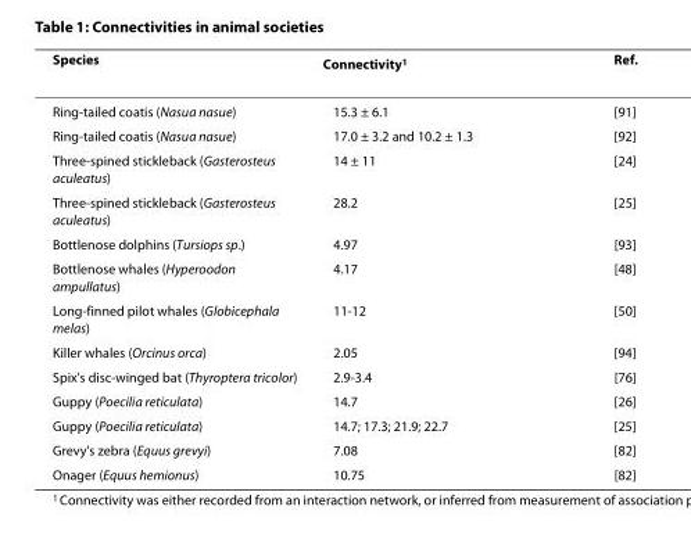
<table><thead><tr><td>Species</td><td>Connectivity<sup>1</sup></td><td>Ref.</td></tr></thead><tbody><tr><td>Ring-tailed coatis (Nasua nasue)</td><td>15.3 ± 6.1</td><td>[91]</td></tr><tr><td>Ring-tailed coatis (Nasua nasue)</td><td>17.0 ± 3.2 and 10.2 ± 1.3</td><td>[92]</td></tr><tr><td>Three-spined stickleback (Gasterosteus aculeatus)</td><td>14 ± 11</td><td>[24]</td></tr><tr><td>Three-spined stickleback (Gasterosteus aculeatus)</td><td>28.2</td><td>[25]</td></tr><tr><td>Bottlenose dolphins (Tursiops sp.)</td><td>4.97</td><td>[93]</td></tr><tr><td>Bottlenose whales (Hyperoodon ampullatus)</td><td>4.17</td><td>[48]</td></tr><tr><td>Long-finned pilot whales (Globicephala melas)</td><td>11-12</td><td>[50]</td></tr><tr><td>Killer whales (Orcinus orca)</td><td>2.05</td><td>[94]</td></tr><tr><td>Spix&#x27;s disc-winged bat (Thyroptera tricolor)</td><td>2.9-3.4</td><td>[76]</td></tr><tr><td>Guppy (Poecilia reticulata)</td><td>14.7</td><td>[26]</td></tr><tr><td>Guppy (Poecilia reticulata)</td><td>14.7; 17.3; 21.9; 22.7</td><td>[25]</td></tr><tr><td>Grevy&#x27;s zebra (Equus grevyi)</td><td>7.08</td><td>[82]</td></tr><tr><td>Onager (Equus hemionus)</td><td>10.75</td><td>[82]</td></tr></tbody></table>